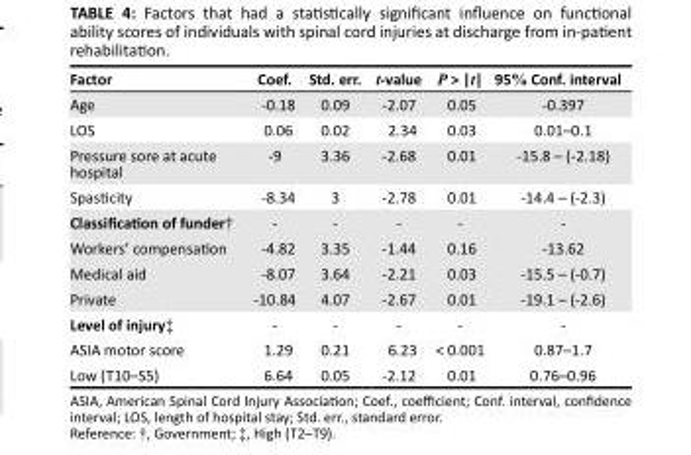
<table><thead><tr><td>Factor</td><td>Coef.</td><td>Std. err.</td><td>t-value</td><td>P &gt; |t|</td><td>95% Conf. interval</td></tr></thead><tbody><tr><td>Age</td><td>-0.18</td><td>0.09</td><td>-2.07</td><td>0.05</td><td>-0.397</td></tr><tr><td>LOS</td><td>0.06</td><td>0.02</td><td>2.34</td><td>0.03</td><td>0.01–0.1</td></tr><tr><td>Pressure sore at acute hospital</td><td>-9</td><td>3.36</td><td>-2.68</td><td>0.01</td><td>-15.8 – (-2.18)</td></tr><tr><td>Spasticity</td><td>-8.34</td><td>3</td><td>-2.78</td><td>0.01</td><td>-14.4 – (-2.3)</td></tr><tr><td>Classification of funder†</td><td>-</td><td>-</td><td>-</td><td>-</td><td>-</td></tr><tr><td>Workers’ compensation</td><td>-4.82</td><td>3.35</td><td>-1.44</td><td>0.16</td><td>-13.62</td></tr><tr><td>Medical aid</td><td>-8.07</td><td>3.64</td><td>-2.21</td><td>0.03</td><td>-15.5 – (-0.7)</td></tr><tr><td>Private</td><td>-10.84</td><td>4.07</td><td>-2.67</td><td>0.01</td><td>-19.1 – (-2.6)</td></tr><tr><td>Level of injury‡</td><td>-</td><td>-</td><td>-</td><td>-</td><td>-</td></tr><tr><td>ASIA motor score</td><td>1.29</td><td>0.21</td><td>6.23</td><td>&lt; 0.001</td><td>0.87–1.7</td></tr><tr><td>Low (T10–S5)</td><td>6.64</td><td>0.05</td><td>-2.12</td><td>0.01</td><td>0.76–0.96</td></tr></tbody></table>